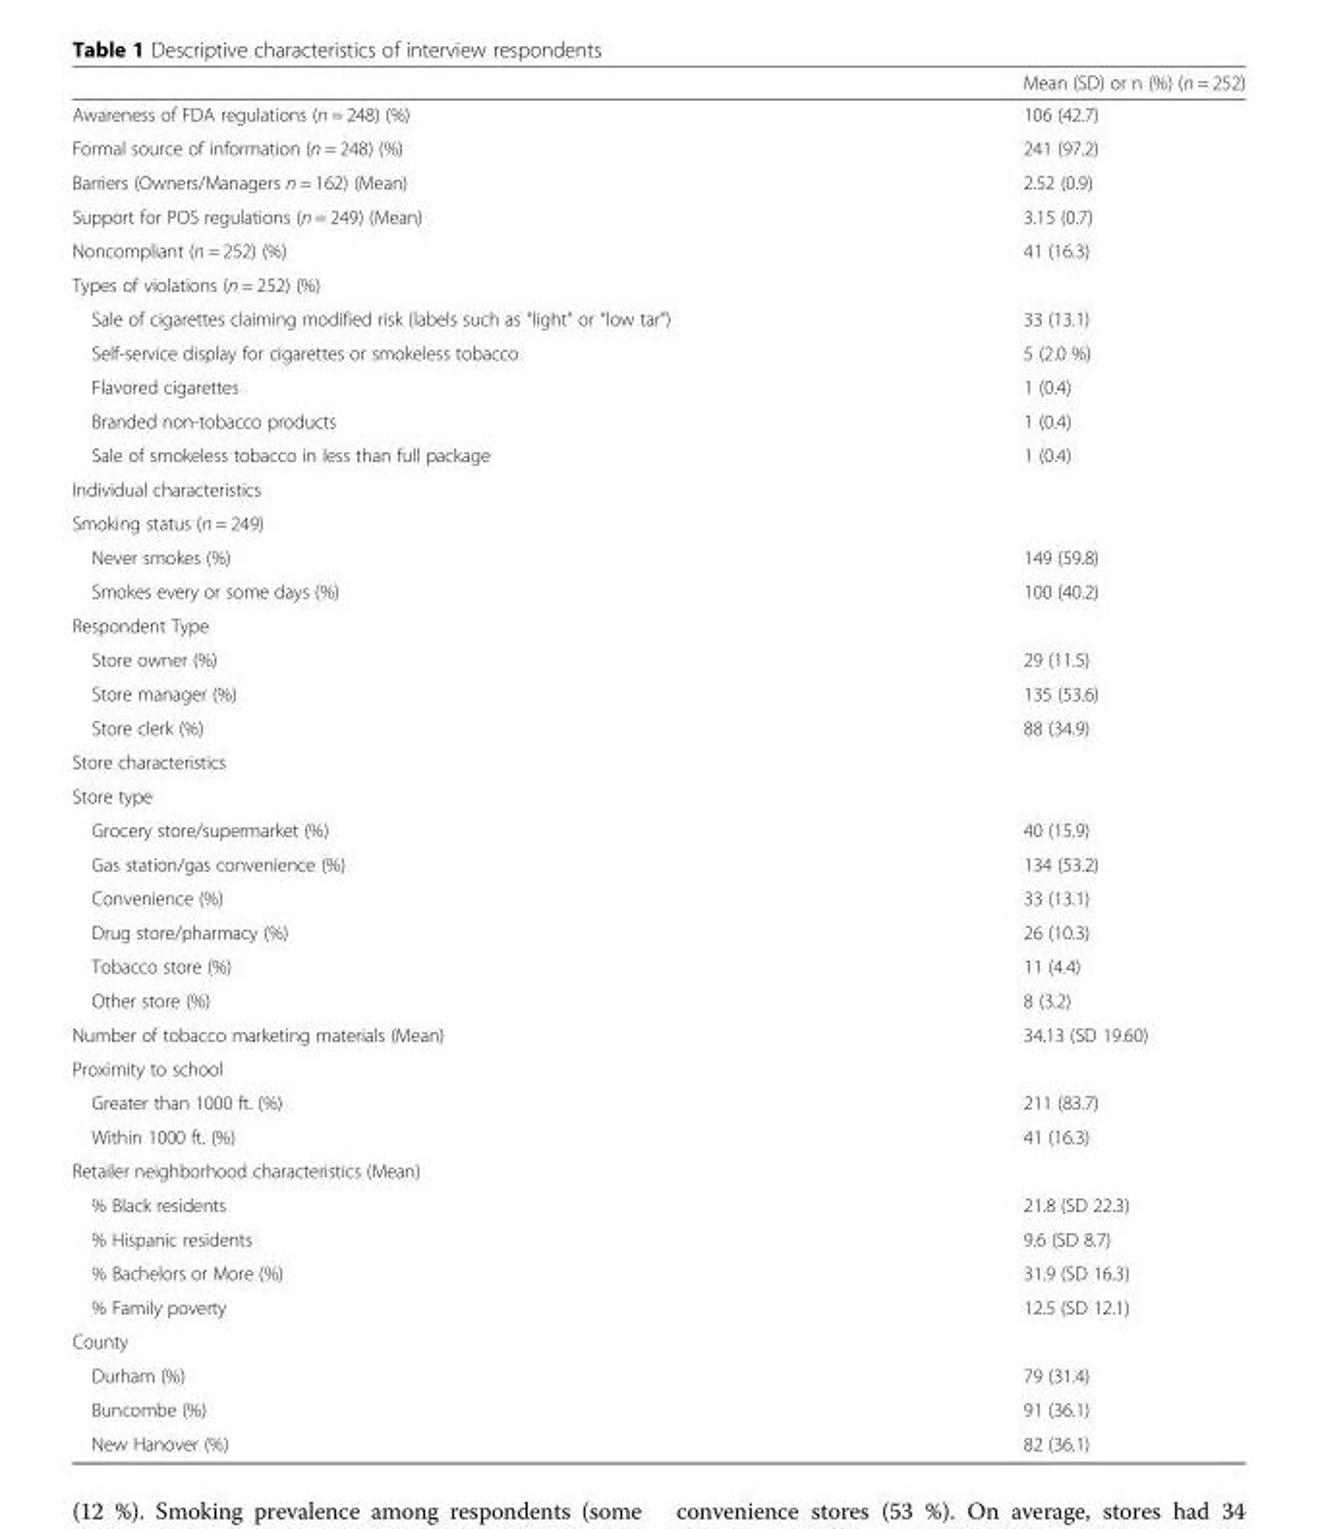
<table><thead><tr><td></td><td>Mean (SD) or n (%) (n = 252)</td></tr></thead><tbody><tr><td>Awareness of FDA regulations (n = 248) (%)</td><td>106 (42.7)</td></tr><tr><td>Formal source of information (n = 248) (%)</td><td>241 (97.2)</td></tr><tr><td>Barriers (Owners/Managers n = 162) (Mean)</td><td>2.52 (0.9)</td></tr><tr><td>Support for POS regulations (n = 249) (Mean)</td><td>3.15 (0.7)</td></tr><tr><td>Noncompliant (n = 252) (%)</td><td>41 (16.3)</td></tr><tr><td colspan="2">Types of violations (n = 252) (%)</td></tr><tr><td>Sale of cigarettes claiming modified risk (labels such as “light” or “low tar”)</td><td>33 (13.1)</td></tr><tr><td>Self-service display for cigarettes or smokeless tobacco</td><td>5 (2.0 %)</td></tr><tr><td>Flavored cigarettes</td><td>1 (0.4)</td></tr><tr><td>Branded non-tobacco products</td><td>1 (0.4)</td></tr><tr><td>Sale of smokeless tobacco in less than full package</td><td>1 (0.4)</td></tr><tr><td colspan="2">Individual characteristics</td></tr><tr><td colspan="2">Smoking status (n = 249)</td></tr><tr><td>Never smokes (%)</td><td>149 (59.8)</td></tr><tr><td>Smokes every or some days (%)</td><td>100 (40.2)</td></tr><tr><td colspan="2">Respondent Type</td></tr><tr><td>Store owner (%)</td><td>29 (11.5)</td></tr><tr><td>Store manager (%)</td><td>135 (53.6)</td></tr><tr><td>Store clerk (%)</td><td>88 (34.9)</td></tr><tr><td colspan="2">Store characteristics</td></tr><tr><td colspan="2">Store type</td></tr><tr><td>Grocery store/supermarket (%)</td><td>40 (15.9)</td></tr><tr><td>Gas station/gas convenience (%)</td><td>134 (53.2)</td></tr><tr><td>Convenience (%)</td><td>33 (13.1)</td></tr><tr><td>Drug store/pharmacy (%)</td><td>26 (10.3)</td></tr><tr><td>Tobacco store (%)</td><td>11 (4.4)</td></tr><tr><td>Other store (%)</td><td>8 (3.2)</td></tr><tr><td>Number of tobacco marketing materials (Mean)</td><td>34.13 (SD 19.60)</td></tr><tr><td colspan="2">Proximity to school</td></tr><tr><td>Greater than 1000 ft. (%)</td><td>211 (83.7)</td></tr><tr><td>Within 1000 ft. (%)</td><td>41 (16.3)</td></tr><tr><td colspan="2">Retailer neighborhood characteristics (Mean)</td></tr><tr><td>% Black residents</td><td>21.8 (SD 22.3)</td></tr><tr><td>% Hispanic residents</td><td>9.6 (SD 8.7)</td></tr><tr><td>% Bachelors or More (%)</td><td>31.9 (SD 16.3)</td></tr><tr><td>% Family poverty</td><td>12.5 (SD 12.1)</td></tr><tr><td colspan="2">County</td></tr><tr><td>Durham (%)</td><td>79 (31.4)</td></tr><tr><td>Buncombe (%)</td><td>91 (36.1)</td></tr><tr><td>New Hanover (%)</td><td>82 (36.1)</td></tr></tbody></table>